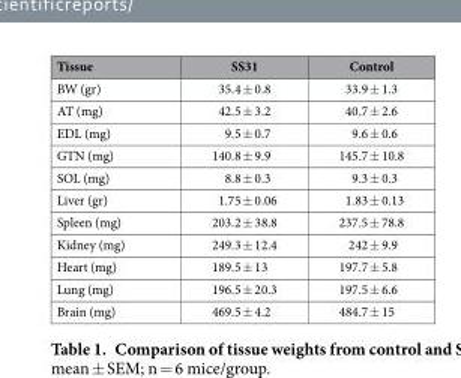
<table><thead><tr><td>Tissue</td><td>SS31</td><td>Control</td></tr></thead><tbody><tr><td>BW (gr)</td><td>35.4 ± 0.8</td><td>33.9 ± 1.3</td></tr><tr><td>AT (mg)</td><td>42.5 ± 3.2</td><td>40.7 ± 2.6</td></tr><tr><td>EDL (mg)</td><td>9.5 ± 0.7</td><td>9.6 ± 0.6</td></tr><tr><td>GTN (mg)</td><td>140.8 ± 9.9</td><td>145.7 ± 10.8</td></tr><tr><td>SOL (mg)</td><td>8.8 ± 0.3</td><td>9.3 ± 0.3</td></tr><tr><td>Liver (gr)</td><td>1.75 ± 0.06</td><td>1.83 ± 0.13</td></tr><tr><td>Spleen (mg)</td><td>203.2 ± 38.8</td><td>237.5 ± 78.8</td></tr><tr><td>Kidney (mg)</td><td>249.3 ± 12.4</td><td>242 ± 9.9</td></tr><tr><td>Heart (mg)</td><td>189.5 ± 13</td><td>197.7 ± 5.8</td></tr><tr><td>Lung (mg)</td><td>196.5 ± 20.3</td><td>197.5 ± 6.6</td></tr><tr><td>Brain (mg)</td><td>469.5 ± 4.2</td><td>484.7 ± 15</td></tr></tbody></table>